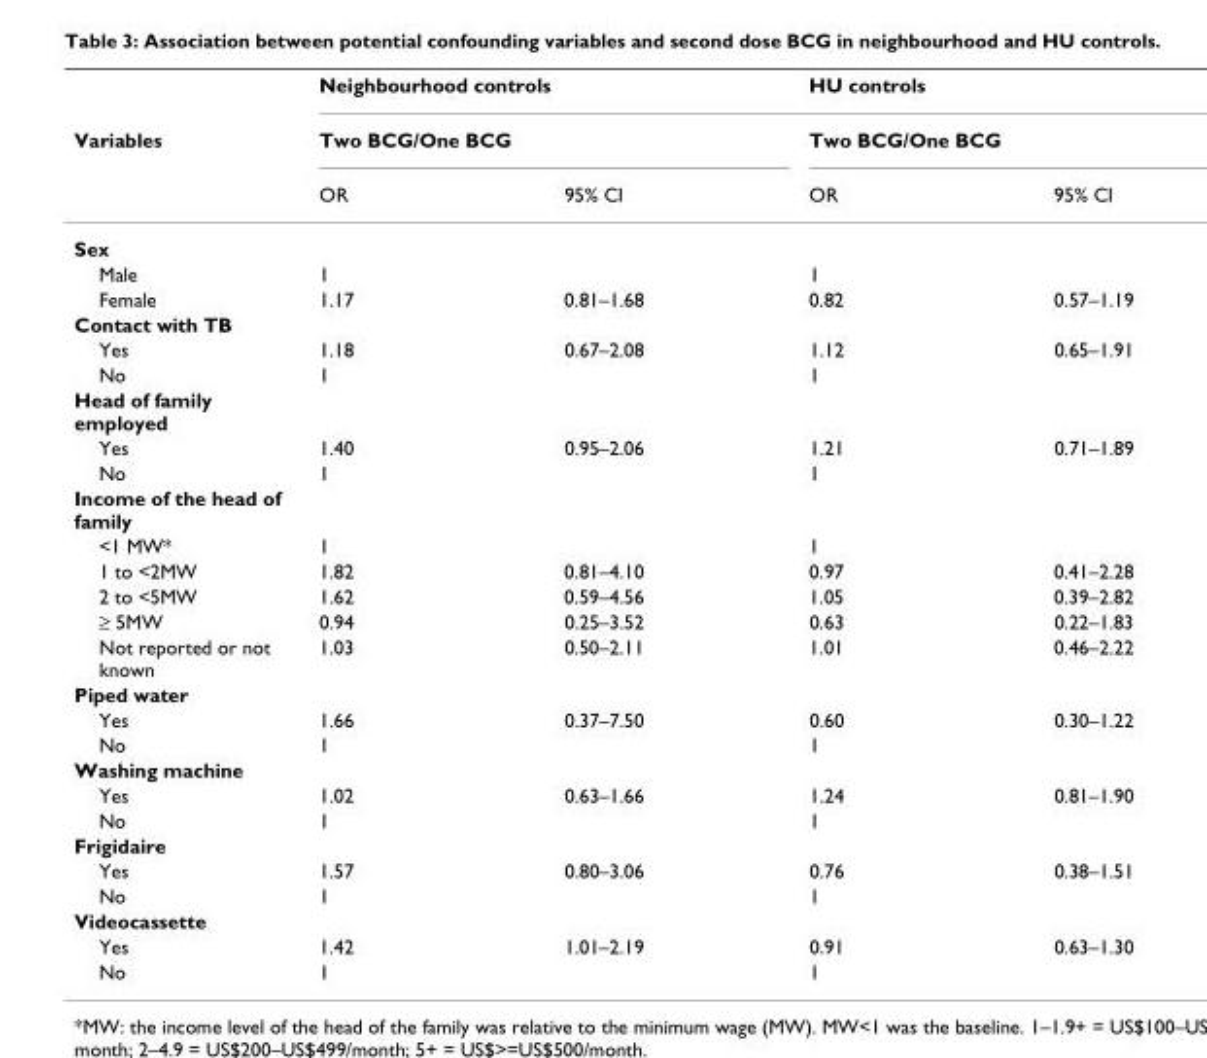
<table><thead><tr><td rowspan="3">Variables</td><td rowspan="2" colspan="2">Neighbourhood controls Two BCG/One BCG</td><td rowspan="2" colspan="2">HU controls Two BCG/One BCG</td></tr><tr></tr><tr><td>OR</td><td>95% CI</td><td>OR</td><td>95% CI</td></tr></thead><tbody><tr><td colspan="5">Sex</td></tr><tr><td>Male</td><td>1</td><td></td><td>1</td><td></td></tr><tr><td>Female</td><td>1.17</td><td>0.81–1.68</td><td>0.82</td><td>0.57–1.19</td></tr><tr><td colspan="5">Contact with TB</td></tr><tr><td>Yes</td><td>1.18</td><td>0.67–2.08</td><td>1.12</td><td>0.65–1.91</td></tr><tr><td>No</td><td>1</td><td></td><td>1</td><td></td></tr><tr><td colspan="5">Head of family employed</td></tr><tr><td>Yes</td><td>1.40</td><td>0.95–2.06</td><td>1.21</td><td>0.71–1.89</td></tr><tr><td>No</td><td>1</td><td></td><td>1</td><td></td></tr><tr><td colspan="5">Income of the head of family</td></tr><tr><td>&lt;1 MW*</td><td>1</td><td></td><td>1</td><td></td></tr><tr><td>1 to &lt;2MW</td><td>1.82</td><td>0.81–4.10</td><td>0.97</td><td>0.41–2.28</td></tr><tr><td>2 to &lt;5MW</td><td>1.62</td><td>0.59–4.56</td><td>1.05</td><td>0.39–2.82</td></tr><tr><td>≥ 5MW</td><td>0.94</td><td>0.25–3.52</td><td>0.63</td><td>0.22–1.83</td></tr><tr><td>Not reported or not known</td><td>1.03</td><td>0.50–2.11</td><td>1.01</td><td>0.46–2.22</td></tr><tr><td colspan="5">Piped water</td></tr><tr><td>Yes</td><td>1.66</td><td>0.37–7.50</td><td>0.60</td><td>0.30–1.22</td></tr><tr><td>No</td><td>1</td><td></td><td>1</td><td></td></tr><tr><td colspan="5">Washing machine</td></tr><tr><td>Yes</td><td>1.02</td><td>0.63–1.66</td><td>1.24</td><td>0.81–1.90</td></tr><tr><td>No</td><td>1</td><td></td><td>1</td><td></td></tr><tr><td colspan="5">Frigidaire</td></tr><tr><td>Yes</td><td>1.57</td><td>0.80–3.06</td><td>0.76</td><td>0.38–1.51</td></tr><tr><td>No</td><td>1</td><td></td><td>1</td><td></td></tr><tr><td colspan="5">Videocassette</td></tr><tr><td>Yes</td><td>1.42</td><td>1.01–2.19</td><td>0.91</td><td>0.63–1.30</td></tr><tr><td>No</td><td>1</td><td></td><td>1</td><td></td></tr></tbody></table>